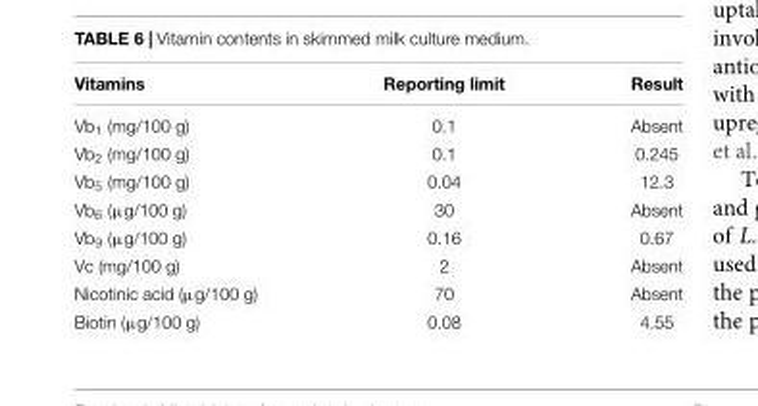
<table><thead><tr><td>Vitamins</td><td>Reporting limit</td><td>Result</td></tr></thead><tbody><tr><td>Vb<sub>1</sub> (mg/100 g)</td><td>0.1</td><td>Absent</td></tr><tr><td>Vb<sub>2</sub> (mg/100 g)</td><td>0.1</td><td>0.245</td></tr><tr><td>Vb<sub>5</sub> (mg/100 g)</td><td>0.04</td><td>12.3</td></tr><tr><td>Vb<sub>6</sub> (µg/100 g)</td><td>30</td><td>Absent</td></tr><tr><td>Vb<sub>9</sub> (µg/100 g)</td><td>0.16</td><td>0.67</td></tr><tr><td>Vc (mg/100 g)</td><td>2</td><td>Absent</td></tr><tr><td>Nicotinic acid (µg/100 g)</td><td>70</td><td>Absent</td></tr><tr><td>Biotin (µg/100 g)</td><td>0.08</td><td>4.55</td></tr></tbody></table>